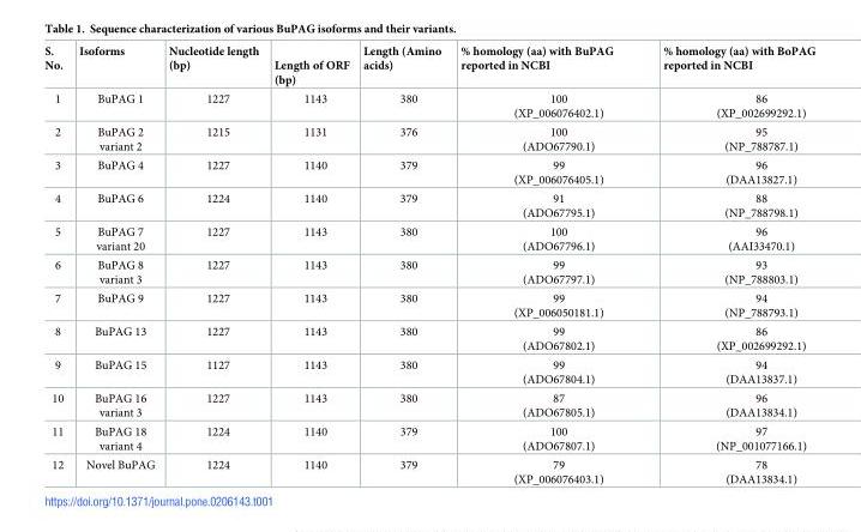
<table><thead><tr><td>S. No.</td><td>Isoforms</td><td>Nucleotide length (bp)</td><td>Length of ORF (bp)</td><td>Length (Amino acids)</td><td>% homology (aa) with BuPAG reported in NCBI</td><td>% homology (aa) with BoPAG reported in NCBI</td></tr></thead><tbody><tr><td>1</td><td>BuPAG 1</td><td>1227</td><td>1143</td><td>380</td><td>100 (XP_006076402.1)</td><td>86 (XP_002699292.1)</td></tr><tr><td>2</td><td>BuPAG 2 variant 2</td><td>1215</td><td>1131</td><td>376</td><td>100 (ADO67790.1)</td><td>95 (NP_788787.1)</td></tr><tr><td>3</td><td>BuPAG 4</td><td>1227</td><td>1140</td><td>379</td><td>99 (XP_006076405.1)</td><td>96 (DAA13827.1)</td></tr><tr><td>4</td><td>BuPAG 6</td><td>1224</td><td>1140</td><td>379</td><td>91 (ADO67795.1)</td><td>88 (NP_788798.1)</td></tr><tr><td>5</td><td>BuPAG 7 variant 20</td><td>1227</td><td>1143</td><td>380</td><td>100 (ADO67796.1)</td><td>96 (AAI33470.1)</td></tr><tr><td>6</td><td>BuPAG 8 variant 3</td><td>1227</td><td>1143</td><td>380</td><td>99 (ADO67797.1)</td><td>93 (NP_788803.1)</td></tr><tr><td>7</td><td>BuPAG 9</td><td>1227</td><td>1143</td><td>380</td><td>99 (XP_006050181.1)</td><td>94 (NP_788793.1)</td></tr><tr><td>8</td><td>BuPAG 13</td><td>1227</td><td>1143</td><td>380</td><td>99 (ADO67802.1)</td><td>86 (XP_002699292.1)</td></tr><tr><td>9</td><td>BuPAG 15</td><td>1127</td><td>1143</td><td>380</td><td>99 (ADO67804.1)</td><td>94 (DAA13837.1)</td></tr><tr><td>10</td><td>BuPAG 16 variant 3</td><td>1227</td><td>1143</td><td>380</td><td>87 (ADO67805.1)</td><td>96 (DAA13834.1)</td></tr><tr><td>11</td><td>BuPAG 18 variant 4</td><td>1224</td><td>1140</td><td>379</td><td>100 (ADO67807.1)</td><td>97 (NP_001077166.1)</td></tr><tr><td>12</td><td>Novel BuPAG</td><td>1224</td><td>1140</td><td>379</td><td>79 (XP_006076403.1)</td><td>78 (DAA13834.1)</td></tr></tbody></table>